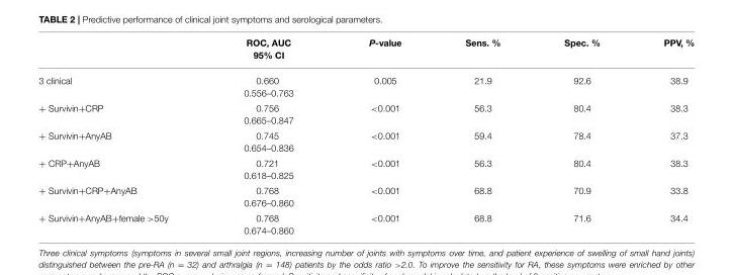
<table><thead><tr><td></td><td>ROC, AUC 95% CI</td><td>P-value</td><td>Sens. %</td><td>Spec. %</td><td>PPV, %</td></tr></thead><tbody><tr><td>3 clinical</td><td>0.660 0.556–0.763</td><td>0.005</td><td>21.9</td><td>92.6</td><td>38.9</td></tr><tr><td>+ Survivin+CRP</td><td>0.756 0.665–0.847</td><td>&lt;0.001</td><td>56.3</td><td>80.4</td><td>38.3</td></tr><tr><td>+ Survivin+AnyAB</td><td>0.745 0.654–0.836</td><td>&lt;0.001</td><td>59.4</td><td>78.4</td><td>37.3</td></tr><tr><td>+ CRP+AnyAB</td><td>0.721 0.618–0.825</td><td>&lt;0.001</td><td>56.3</td><td>80.4</td><td>38.3</td></tr><tr><td>+ Survivin+CRP+AnyAB</td><td>0.768 0.676–0.860</td><td>&lt;0.001</td><td>68.8</td><td>70.9</td><td>33.8</td></tr><tr><td>+ Survivin+AnyAB+female &gt;50y</td><td>0.768 0.674–0.860</td><td>&lt;0.001</td><td>68.8</td><td>71.6</td><td>34.4</td></tr></tbody></table>